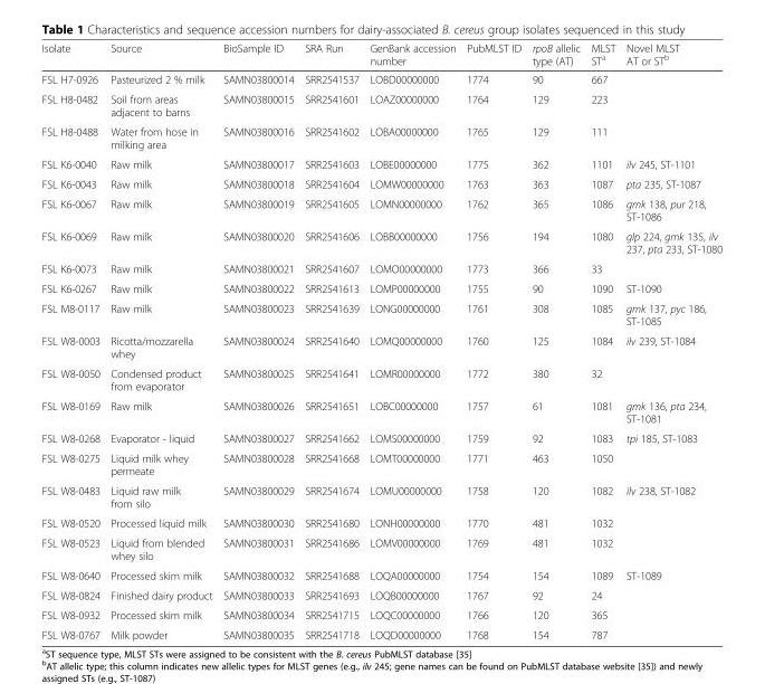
<table><thead><tr><td>Isolate</td><td>Source</td><td>BioSample ID</td><td>SRA Run</td><td>GenBank accession number</td><td>PubMLST ID</td><td>rpoB allelic type (AT)</td><td>MLST ST<sup>a</sup></td><td>Novel MLST AT or ST<sup>b</sup></td></tr></thead><tbody><tr><td>FSL H7-0926</td><td>Pasteurized 2 % milk</td><td>SAMN03800014</td><td>SRR2541537</td><td>LOBD00000000</td><td>1774</td><td>90</td><td>667</td><td></td></tr><tr><td>FSL H8-0482</td><td>Soil from areas adjacent to barns</td><td>SAMN03800015</td><td>SRR2541601</td><td>LOAZ00000000</td><td>1764</td><td>129</td><td>223</td><td></td></tr><tr><td>FSL H8-0488</td><td>Water from hose in milking area</td><td>SAMN03800016</td><td>SRR2541602</td><td>LOBA00000000</td><td>1765</td><td>129</td><td>111</td><td></td></tr><tr><td>FSL K6-0040</td><td>Raw milk</td><td>SAMN03800017</td><td>SRR2541603</td><td>LOBE00000000</td><td>1775</td><td>362</td><td>1101</td><td>ilv 245, ST-1101</td></tr><tr><td>FSL K6-0043</td><td>Raw milk</td><td>SAMN03800018</td><td>SRR2541604</td><td>LOMW00000000</td><td>1763</td><td>363</td><td>1087</td><td>pta 235, ST-1087</td></tr><tr><td>FSL K6-0067</td><td>Raw milk</td><td>SAMN03800019</td><td>SRR2541605</td><td>LOMN00000000</td><td>1762</td><td>365</td><td>1086</td><td>gmk 138, pur 218, ST-1086</td></tr><tr><td>FSL K6-0069</td><td>Raw milk</td><td>SAMN03800020</td><td>SRR2541606</td><td>LOBB00000000</td><td>1756</td><td>194</td><td>1080</td><td>glp 224, gmk 135, ilv 237, pta 233, ST-1080</td></tr><tr><td>FSL K6-0073</td><td>Raw milk</td><td>SAMN03800021</td><td>SRR2541607</td><td>LOMO00000000</td><td>1773</td><td>366</td><td>33</td><td></td></tr><tr><td>FSL K6-0267</td><td>Raw milk</td><td>SAMN03800022</td><td>SRR2541613</td><td>LOMP00000000</td><td>1755</td><td>90</td><td>1090</td><td>ST-1090</td></tr><tr><td>FSL M8-0117</td><td>Raw milk</td><td>SAMN03800023</td><td>SRR2541639</td><td>LONG00000000</td><td>1761</td><td>308</td><td>1085</td><td>gmk 137, pyc 186, ST-1085</td></tr><tr><td>FSL W8-0003</td><td>Ricotta/mozzarella whey</td><td>SAMN03800024</td><td>SRR2541640</td><td>LOMQ00000000</td><td>1760</td><td>125</td><td>1084</td><td>ilv 239, ST-1084</td></tr><tr><td>FSL W8-0050</td><td>Condensed product from evaporator</td><td>SAMN03800025</td><td>SRR2541641</td><td>LOMR00000000</td><td>1772</td><td>380</td><td>32</td><td></td></tr><tr><td>FSL W8-0169</td><td>Raw milk</td><td>SAMN03800026</td><td>SRR2541651</td><td>LOBC00000000</td><td>1757</td><td>61</td><td>1081</td><td>gmk 136, pta 234, ST-1081</td></tr><tr><td>FSL W8-0268</td><td>Evaporator - liquid</td><td>SAMN03800027</td><td>SRR2541662</td><td>LOMS00000000</td><td>1759</td><td>92</td><td>1083</td><td>tpi 185, ST-1083</td></tr><tr><td>FSL W8-0275</td><td>Liquid milk whey permeate</td><td>SAMN03800028</td><td>SRR2541668</td><td>LOMT00000000</td><td>1771</td><td>463</td><td>1050</td><td></td></tr><tr><td>FSL W8-0483</td><td>Liquid raw milk from silo</td><td>SAMN03800029</td><td>SRR2541674</td><td>LOMU00000000</td><td>1758</td><td>120</td><td>1082</td><td>ilv 238, ST-1082</td></tr><tr><td>FSL W8-0520</td><td>Processed liquid milk</td><td>SAMN03800030</td><td>SRR2541680</td><td>LONH00000000</td><td>1770</td><td>481</td><td>1032</td><td></td></tr><tr><td>FSL W8-0523</td><td>Liquid from blended whey silo</td><td>SAMN03800031</td><td>SRR2541686</td><td>LOMV00000000</td><td>1769</td><td>481</td><td>1032</td><td></td></tr><tr><td>FSL W8-0640</td><td>Processed skim milk</td><td>SAMN03800032</td><td>SRR2541688</td><td>LOQA00000000</td><td>1754</td><td>154</td><td>1089</td><td>ST-1089</td></tr><tr><td>FSL W8-0824</td><td>Finished dairy product</td><td>SAMN03800033</td><td>SRR2541693</td><td>LOQB00000000</td><td>1767</td><td>92</td><td>24</td><td></td></tr><tr><td>FSL W8-0932</td><td>Processed skim milk</td><td>SAMN03800034</td><td>SRR2541715</td><td>LOQC00000000</td><td>1766</td><td>120</td><td>365</td><td></td></tr><tr><td>FSL W8-0767</td><td>Milk powder</td><td>SAMN03800035</td><td>SRR2541718</td><td>LOQD00000000</td><td>1768</td><td>154</td><td>787</td><td></td></tr></tbody></table>